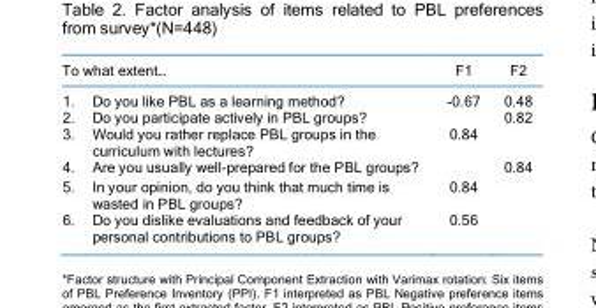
<table><thead><tr><td>To what extent…</td><td>F1</td><td>F2</td></tr></thead><tbody><tr><td>1. Do you like PBL as a learning method?</td><td>-0.67</td><td>0.48</td></tr><tr><td>2. Do you participate actively in PBL groups?</td><td></td><td>0.82</td></tr><tr><td>3. Would you rather replace PBL groups in the curriculum with lectures?</td><td>0.84</td><td></td></tr><tr><td>4. Are you usually well-prepared for the PBL groups?</td><td></td><td>0.84</td></tr><tr><td>5. In your opinion, do you think that much time is wasted in PBL groups?</td><td>0.84</td><td></td></tr><tr><td>6. Do you dislike evaluations and feedback of your personal contributions to PBL groups?</td><td>0.56</td><td></td></tr></tbody></table>